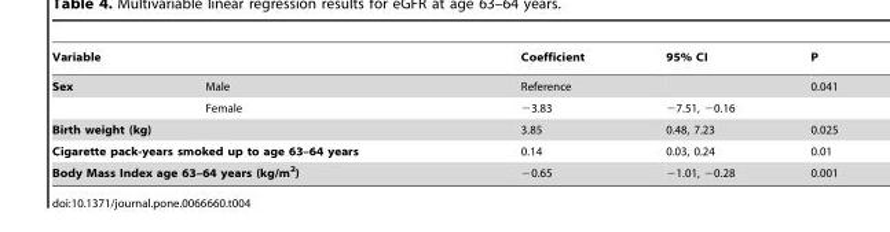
<table><thead><tr><td colspan="2">Variable</td><td rowspan="2">Coefficient Reference</td><td rowspan="2">95% CI</td><td rowspan="2">P 0.041</td></tr><tr><td>Sex</td><td>Male</td></tr></thead><tbody><tr><td></td><td>Female</td><td>−3.83</td><td>−7.51, −0.16</td><td></td></tr><tr><td colspan="2">Birth weight (kg)</td><td>3.85</td><td>0.48, 7.23</td><td>0.025</td></tr><tr><td colspan="2">Cigarette pack-years smoked up to age 63–64 years</td><td>0.14</td><td>0.03, 0.24</td><td>0.01</td></tr><tr><td colspan="2">Body Mass Index age 63–64 years (kg/m<sup>2</sup>)</td><td>−0.65</td><td>−1.01, −0.28</td><td>0.001</td></tr></tbody></table>